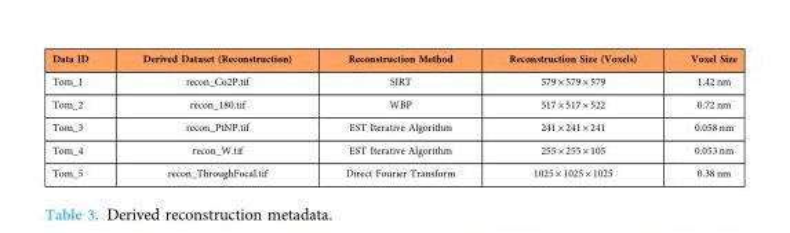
<table><thead><tr><td>Data ID</td><td>Derived Dataset (Reconstruction)</td><td>Reconstruction Method</td><td>Reconstruction Size (Voxels)</td><td>Voxel Size</td></tr></thead><tbody><tr><td>Tom_1</td><td>recon_Co2P.tif</td><td>SIRT</td><td>579 × 579 × 579</td><td>1.42 nm</td></tr><tr><td>Tom_2</td><td>recon_180.tif</td><td>WBP</td><td>517 × 517 × 522</td><td>0.72 nm</td></tr><tr><td>Tom_3</td><td>recon_PtNP.tif</td><td>EST Iterative Algorithm</td><td>241 × 241 × 241</td><td>0.058 nm</td></tr><tr><td>Tom_4</td><td>recon_W.tif</td><td>EST Iterative Algorithm</td><td>255 × 255 × 105</td><td>0.053 nm</td></tr><tr><td>Tom_5</td><td>recon_ThroughFocal.tif</td><td>Direct Fourier Transform</td><td>1025 × 1025 × 1025</td><td>0.38 nm</td></tr></tbody></table>